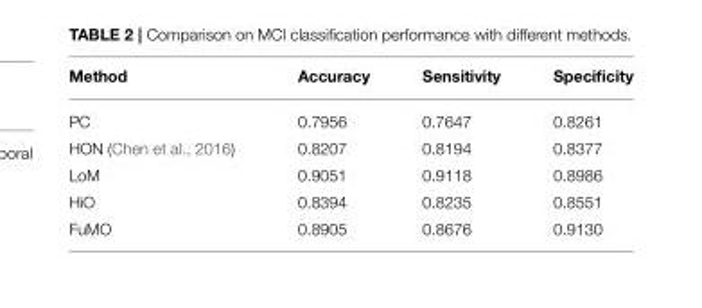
<table><thead><tr><td>Method</td><td>Accuracy</td><td>Sensitivity</td><td>Specificity</td></tr></thead><tbody><tr><td>PC</td><td>0.7956</td><td>0.7647</td><td>0.8261</td></tr><tr><td>HON (Chen et al., 2016)</td><td>0.8207</td><td>0.8194</td><td>0.8377</td></tr><tr><td>LoM</td><td>0.9051</td><td>0.9118</td><td>0.8986</td></tr><tr><td>HiO</td><td>0.8394</td><td>0.8235</td><td>0.8551</td></tr><tr><td>FuMO</td><td>0.8905</td><td>0.8676</td><td>0.9130</td></tr></tbody></table>